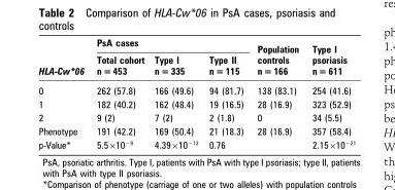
<table><thead><tr><td rowspan="2">HLA-Cw*06</td><td colspan="3">PsA cases</td><td rowspan="2">Population controls n = 166</td><td rowspan="2">Type I psoriasis n = 611</td></tr><tr><td>Total cohort n = 453</td><td>Type I n = 335</td><td>Type II n = 115</td></tr></thead><tbody><tr><td>0</td><td>262 (57.8)</td><td>166 (49.6)</td><td>94 (81.7)</td><td>138 (83.1)</td><td>254 (41.6)</td></tr><tr><td>1</td><td>182 (40.2)</td><td>162 (48.4)</td><td>19 (16.5)</td><td>28 (16.9)</td><td>323 (52.9)</td></tr><tr><td>2</td><td>9 (2)</td><td>7 (2)</td><td>2 (1.8)</td><td>0</td><td>34 (5.5)</td></tr><tr><td>Phenotype</td><td>191 (42.2)</td><td>169 (50.4)</td><td>21 (18.3)</td><td>28 (16.9)</td><td>357 (58.4)</td></tr><tr><td>p-Value*</td><td>5.5×10<sup>−9</sup></td><td>4.39×10<sup>−13</sup></td><td>0.76</td><td></td><td>2.15×10<sup>−21</sup></td></tr></tbody></table>